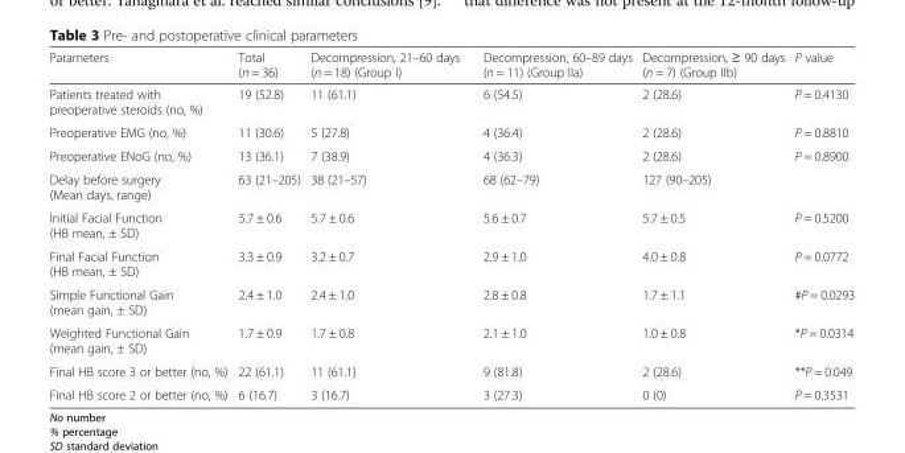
<table><thead><tr><td>Parameters</td><td>Total (n = 36)</td><td>Decompression, 21–60 days (n = 18) (Group I)</td><td>Decompression, 60–89 days (n = 11) (Group IIa)</td><td>Decompression, ≥ 90 days (n = 7) (Group IIb)</td><td>P value</td></tr></thead><tbody><tr><td>Patients treated with preoperative steroids (no, %)</td><td>19 (52.8)</td><td>11 (61.1)</td><td>6 (54.5)</td><td>2 (28.6)</td><td>P = 0.4130</td></tr><tr><td>Preoperative EMG (no, %)</td><td>11 (30.6)</td><td>5 (27.8)</td><td>4 (36.4)</td><td>2 (28.6)</td><td>P = 0.8810</td></tr><tr><td>Preoperative ENoG (no, %)</td><td>13 (36.1)</td><td>7 (38.9)</td><td>4 (36.3)</td><td>2 (28.6)</td><td>P = 0.8900</td></tr><tr><td>Delay before surgery (Mean days, range)</td><td>63 (21–205)</td><td>38 (21–57)</td><td>68 (62–79)</td><td>127 (90–205)</td><td></td></tr><tr><td>Initial Facial Function (HB mean, ± SD)</td><td>5.7 ± 0.6</td><td>5.7 ± 0.6</td><td>5.6 ± 0.7</td><td>5.7 ± 0.5</td><td>P = 0.5200</td></tr><tr><td>Final Facial Function (HB mean, ± SD)</td><td>3.3 ± 0.9</td><td>3.2 ± 0.7</td><td>2.9 ± 1.0</td><td>4.0 ± 0.8</td><td>P = 0.0772</td></tr><tr><td>Simple Functional Gain (mean gain, ± SD)</td><td>2.4 ± 1.0</td><td>2.4 ± 1.0</td><td>2.8 ± 0.8</td><td>1.7 ± 1.1</td><td>#P = 0.0293</td></tr><tr><td>Weighted Functional Gain (mean gain, ± SD)</td><td>1.7 ± 0.9</td><td>1.7 ± 0.8</td><td>2.1 ± 1.0</td><td>1.0 ± 0.8</td><td>*P = 0.0314</td></tr><tr><td>Final HB score 3 or better (no, %)</td><td>22 (61.1)</td><td>11 (61.1)</td><td>9 (81.8)</td><td>2 (28.6)</td><td>**P = 0.049</td></tr><tr><td>Final HB score 2 or better (no, %)</td><td>6 (16.7)</td><td>3 (16.7)</td><td>3 (27.3)</td><td>0 (0)</td><td>P = 0.3531</td></tr></tbody></table>